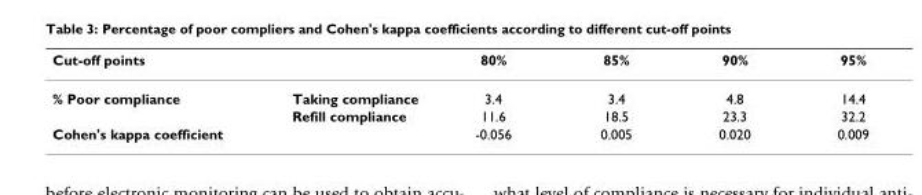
<table><thead><tr><td>Cut-off points</td><td></td><td>80%</td><td>85%</td><td>90%</td><td>95%</td></tr></thead><tbody><tr><td rowspan="2">% Poor compliance</td><td>Taking compliance</td><td>3.4</td><td>3.4</td><td>4.8</td><td>14.4</td></tr><tr><td>Refill compliance</td><td>11.6</td><td>18.5</td><td>23.3</td><td>32.2</td></tr><tr><td>Cohen&#x27;s kappa coefficient</td><td></td><td>-0.056</td><td>0.005</td><td>0.020</td><td>0.009</td></tr></tbody></table>